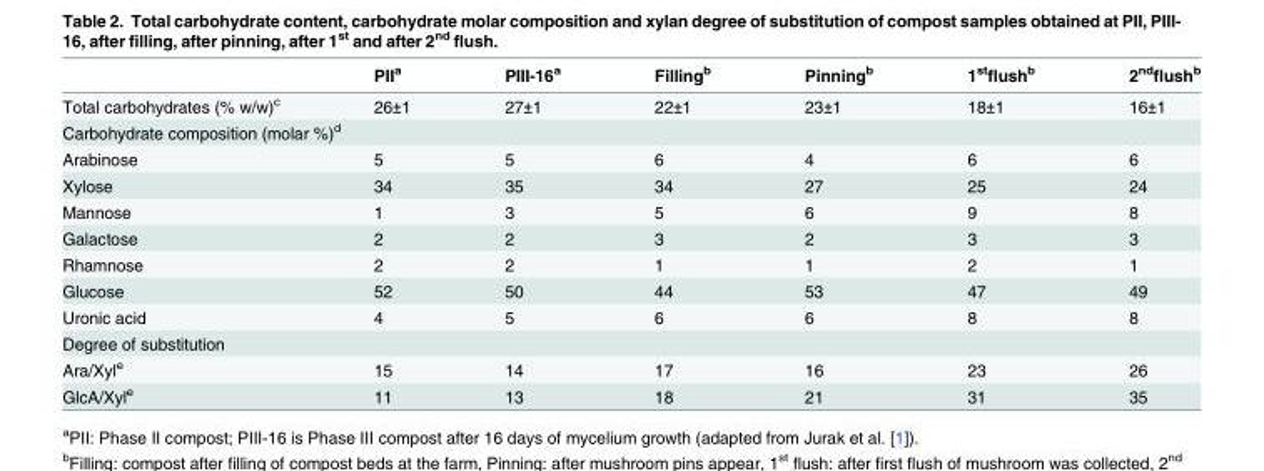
<table><thead><tr><td></td><td>PII<sup>a</sup></td><td>PIII-16<sup>a</sup></td><td>Filling<sup>b</sup></td><td>Pinning<sup>b</sup></td><td>1<sup>st</sup>flush<sup>b</sup></td><td>2<sup>nd</sup>flush<sup>b</sup></td></tr></thead><tbody><tr><td>Total carbohydrates (% w/w)<sup>c</sup></td><td>26±1</td><td>27±1</td><td>22±1</td><td>23±1</td><td>18±1</td><td>16±1</td></tr><tr><td colspan="7">Carbohydrate composition (molar %)<sup>d</sup></td></tr><tr><td>Arabinose</td><td>5</td><td>5</td><td>6</td><td>4</td><td>6</td><td>6</td></tr><tr><td>Xylose</td><td>34</td><td>35</td><td>34</td><td>27</td><td>25</td><td>24</td></tr><tr><td>Mannose</td><td>1</td><td>3</td><td>5</td><td>6</td><td>9</td><td>8</td></tr><tr><td>Galactose</td><td>2</td><td>2</td><td>3</td><td>2</td><td>3</td><td>3</td></tr><tr><td>Rhamnose</td><td>2</td><td>2</td><td>1</td><td>1</td><td>2</td><td>1</td></tr><tr><td>Glucose</td><td>52</td><td>50</td><td>44</td><td>53</td><td>47</td><td>49</td></tr><tr><td>Uronic acid</td><td>4</td><td>5</td><td>6</td><td>6</td><td>8</td><td>8</td></tr><tr><td colspan="7">Degree of substitution</td></tr><tr><td>Ara/Xyl<sup>e</sup></td><td>15</td><td>14</td><td>17</td><td>16</td><td>23</td><td>26</td></tr><tr><td>GlcA/Xyl<sup>e</sup></td><td>11</td><td>13</td><td>18</td><td>21</td><td>31</td><td>35</td></tr></tbody></table>